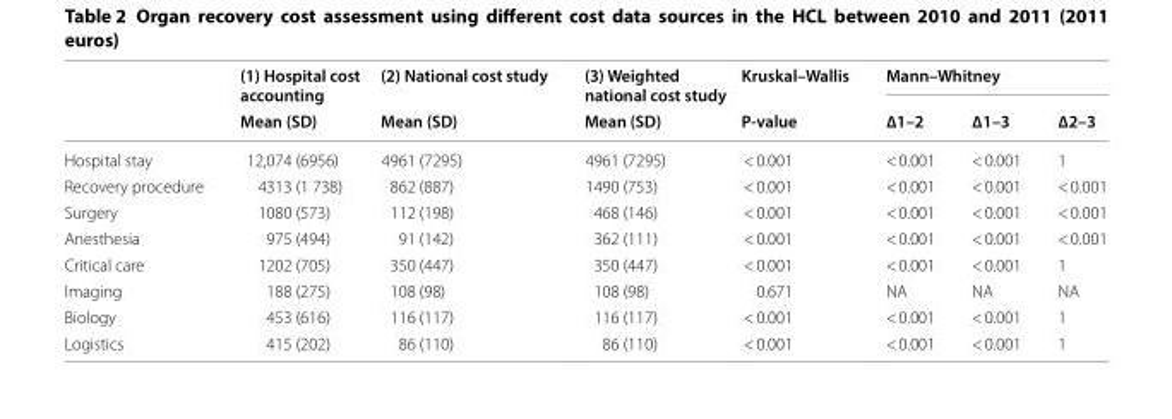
<table><thead><tr><td rowspan="2"></td><td rowspan="2">(1) Hospital cost accounting Mean (SD)</td><td rowspan="2">(2) National cost study Mean (SD)</td><td rowspan="2">(3) Weighted national cost study Mean (SD)</td><td rowspan="2">Kruskal–Wallis P-value</td><td colspan="3">Mann–Whitney</td></tr><tr><td>∆1–2</td><td>∆1–3</td><td>∆2–3</td></tr></thead><tbody><tr><td>Hospital stay</td><td>12,074 (6956)</td><td>4961 (7295)</td><td>4961 (7295)</td><td>&lt; 0.001</td><td>&lt; 0.001</td><td>&lt; 0.001</td><td>1</td></tr><tr><td>Recovery procedure</td><td>4313 (1 738)</td><td>862 (887)</td><td>1490 (753)</td><td>&lt; 0.001</td><td>&lt; 0.001</td><td>&lt; 0.001</td><td>&lt; 0.001</td></tr><tr><td>Surgery</td><td>1080 (573)</td><td>112 (198)</td><td>468 (146)</td><td>&lt; 0.001</td><td>&lt; 0.001</td><td>&lt; 0.001</td><td>&lt; 0.001</td></tr><tr><td>Anesthesia</td><td>975 (494)</td><td>91 (142)</td><td>362 (111)</td><td>&lt; 0.001</td><td>&lt; 0.001</td><td>&lt; 0.001</td><td>&lt; 0.001</td></tr><tr><td>Critical care</td><td>1202 (705)</td><td>350 (447)</td><td>350 (447)</td><td>&lt; 0.001</td><td>&lt; 0.001</td><td>&lt; 0.001</td><td>1</td></tr><tr><td>Imaging</td><td>188 (275)</td><td>108 (98)</td><td>108 (98)</td><td>0.671</td><td>NA</td><td>NA</td><td>NA</td></tr><tr><td>Biology</td><td>453 (616)</td><td>116 (117)</td><td>116 (117)</td><td>&lt; 0.001</td><td>&lt; 0.001</td><td>&lt; 0.001</td><td>1</td></tr><tr><td>Logistics</td><td>415 (202)</td><td>86 (110)</td><td>86 (110)</td><td>&lt; 0.001</td><td>&lt; 0.001</td><td>&lt; 0.001</td><td>1</td></tr></tbody></table>